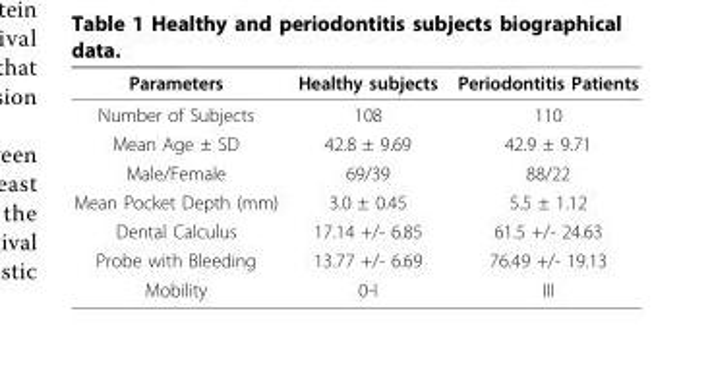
<table><thead><tr><td>Parameters</td><td>Healthy subjects</td><td>Periodontitis Patients</td></tr></thead><tbody><tr><td>Number of Subjects</td><td>108</td><td>110</td></tr><tr><td>Mean Age ± SD</td><td>42.8 ± 9.69</td><td>42.9 ± 9.71</td></tr><tr><td>Male/Female</td><td>69/39</td><td>88/22</td></tr><tr><td>Mean Pocket Depth (mm)</td><td>3.0 ± 0.45</td><td>5.5 ± 1.12</td></tr><tr><td>Dental Calculus</td><td>17.14 +/- 6.85</td><td>61.5 +/- 24.63</td></tr><tr><td>Probe with Bleeding</td><td>13.77 +/- 6.69</td><td>76.49 +/- 19.13</td></tr><tr><td>Mobility</td><td>0-I</td><td>III</td></tr></tbody></table>